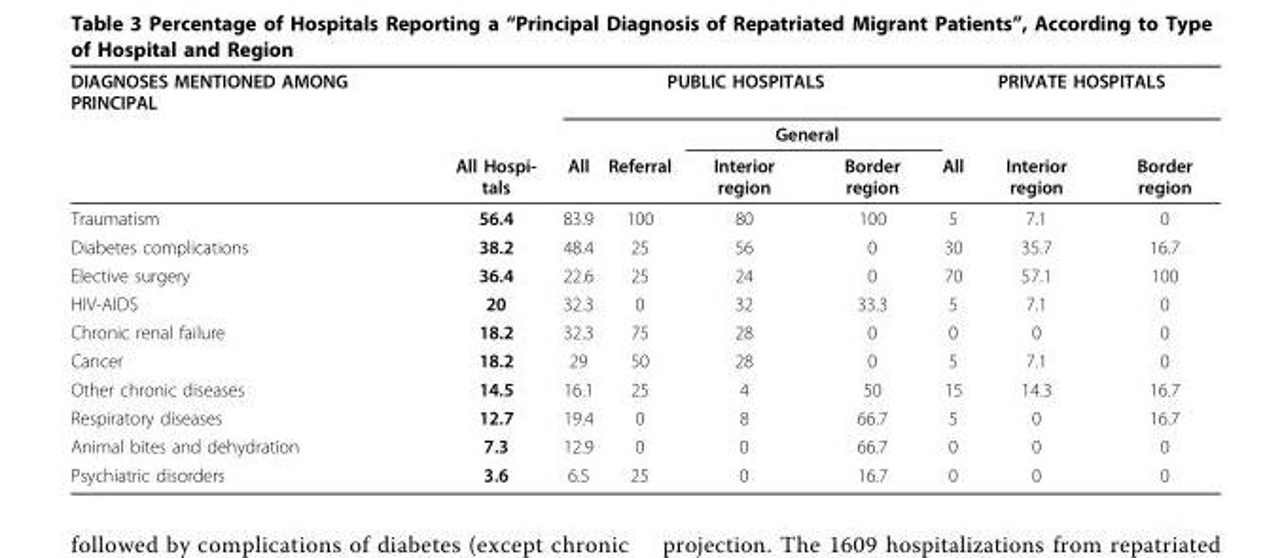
<table><thead><tr><td rowspan="3">DIAGNOSES MENTIONED AMONG PRINCIPAL</td><td rowspan="3">All Hospi- tals</td><td colspan="4">PUBLIC HOSPITALS</td><td colspan="3">PRIVATE HOSPITALS</td></tr><tr><td rowspan="2">All</td><td rowspan="2">Referral</td><td colspan="2">General</td><td rowspan="2">All</td><td rowspan="2">Interior region</td><td rowspan="2">Border region</td></tr><tr><td>Interior region</td><td>Border region</td></tr></thead><tbody><tr><td>Traumatism</td><td>56.4</td><td>83.9</td><td>100</td><td>80</td><td>100</td><td>5</td><td>7.1</td><td>0</td></tr><tr><td>Diabetes complications</td><td>38.2</td><td>48.4</td><td>25</td><td>56</td><td>0</td><td>30</td><td>35.7</td><td>16.7</td></tr><tr><td>Elective surgery</td><td>36.4</td><td>22.6</td><td>25</td><td>24</td><td>0</td><td>70</td><td>57.1</td><td>100</td></tr><tr><td>HIV-AIDS</td><td>20</td><td>32.3</td><td>0</td><td>32</td><td>33.3</td><td>5</td><td>7.1</td><td>0</td></tr><tr><td>Chronic renal failure</td><td>18.2</td><td>32.3</td><td>75</td><td>28</td><td>0</td><td>0</td><td>0</td><td>0</td></tr><tr><td>Cancer</td><td>18.2</td><td>29</td><td>50</td><td>28</td><td>0</td><td>5</td><td>7.1</td><td>0</td></tr><tr><td>Other chronic diseases</td><td>14.5</td><td>16.1</td><td>25</td><td>4</td><td>50</td><td>15</td><td>14.3</td><td>16.7</td></tr><tr><td>Respiratory diseases</td><td>12.7</td><td>19.4</td><td>0</td><td>8</td><td>66.7</td><td>5</td><td>0</td><td>16.7</td></tr><tr><td>Animal bites and dehydration</td><td>7.3</td><td>12.9</td><td>0</td><td>0</td><td>66.7</td><td>0</td><td>0</td><td>0</td></tr><tr><td>Psychiatric disorders</td><td>3.6</td><td>6.5</td><td>25</td><td>0</td><td>16.7</td><td>0</td><td>0</td><td>0</td></tr></tbody></table>